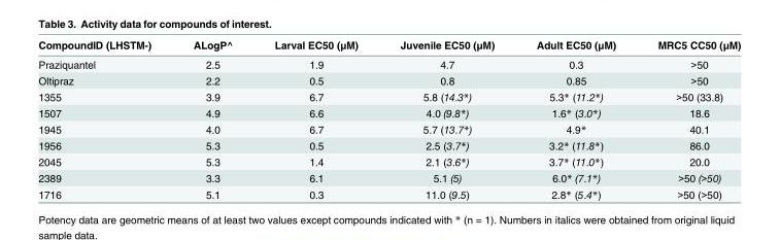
<table><thead><tr><td>CompoundID (LHSTM-)</td><td>ALogP^</td><td>Larval EC50 (μM)</td><td>Juvenile EC50 (μM)</td><td>Adult EC50 (μM)</td><td>MRC5 CC50 (μM)</td></tr></thead><tbody><tr><td>Praziquantel</td><td>2.5</td><td>1.9</td><td>4.7</td><td>0.3</td><td>&gt;50</td></tr><tr><td>Oltipraz</td><td>2.2</td><td>0.5</td><td>0.8</td><td>0.85</td><td>&gt;50</td></tr><tr><td>1355</td><td>3.9</td><td>6.7</td><td>5.8 (14.3*)</td><td>5.3* (11.2*)</td><td>&gt;50 (33.8)</td></tr><tr><td>1507</td><td>4.9</td><td>6.6</td><td>4.0 (9.8*)</td><td>1.6* (3.0*)</td><td>18.6</td></tr><tr><td>1945</td><td>4.0</td><td>6.7</td><td>5.7 (13.7*)</td><td>4.9*</td><td>40.1</td></tr><tr><td>1956</td><td>5.3</td><td>0.5</td><td>2.5 (3.7*)</td><td>3.2* (11.8*)</td><td>86.0</td></tr><tr><td>2045</td><td>5.3</td><td>1.4</td><td>2.1 (3.6*)</td><td>3.7* (11.0*)</td><td>20.0</td></tr><tr><td>2389</td><td>3.3</td><td>6.1</td><td>5.1 (5)</td><td>6.0* (7.1*)</td><td>&gt;50 (&gt;50)</td></tr><tr><td>1716</td><td>5.1</td><td>0.3</td><td>11.0 (9.5)</td><td>2.8* (5.4*)</td><td>&gt;50 (&gt;50)</td></tr></tbody></table>